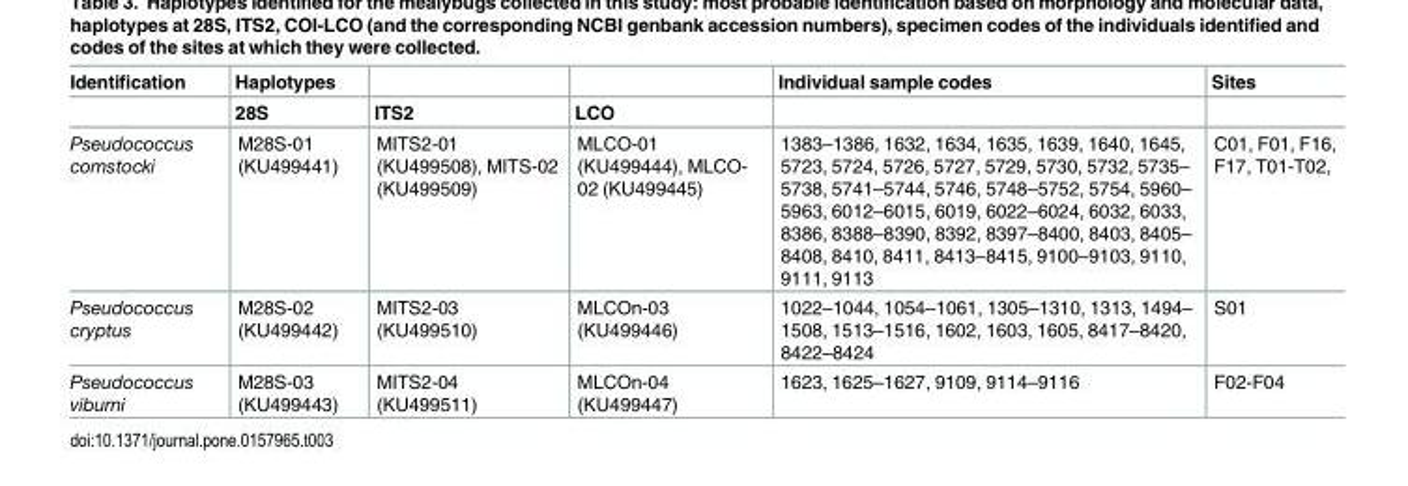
<table><thead><tr><td rowspan="2">Identification</td><td rowspan="2">Haplotypes 28S</td><td rowspan="2">ITS2</td><td rowspan="2">LCO</td><td rowspan="2">Individual sample codes</td><td rowspan="2">Sites</td></tr><tr></tr></thead><tbody><tr><td>Pseudococcus comstocki</td><td>M28S-01 (KU499441)</td><td>MITS2-01 (KU499508), MITS-02 (KU499509)</td><td>MLCO-01 (KU499444), MLCO- 02 (KU499445)</td><td>1383–1386, 1632, 1634, 1635, 1639, 1640, 1645, 5723, 5724, 5726, 5727, 5729, 5730, 5732, 5735– 5738, 5741–5744, 5746, 5748–5752, 5754, 5960– 5963, 6012–6015, 6019, 6022–6024, 6032, 6033, 8386, 8388–8390, 8392, 8397–8400, 8403, 8405– 8408, 8410, 8411, 8413–8415, 9100–9103, 9110, 9111, 9113</td><td>C01, F01, F16, F17, T01-T02,</td></tr><tr><td>Pseudococcus cryptus</td><td>M28S-02 (KU499442)</td><td>MITS2-03 (KU499510)</td><td>MLCOn-03 (KU499446)</td><td>1022–1044, 1054–1061, 1305–1310, 1313, 1494– 1508, 1513–1516, 1602, 1603, 1605, 8417–8420, 8422–8424</td><td>S01</td></tr><tr><td>Pseudococcus viburni</td><td>M28S-03 (KU499443)</td><td>MITS2-04 (KU499511)</td><td>MLCOn-04 (KU499447)</td><td>1623, 1625–1627, 9109, 9114–9116</td><td>F02-F04</td></tr></tbody></table>